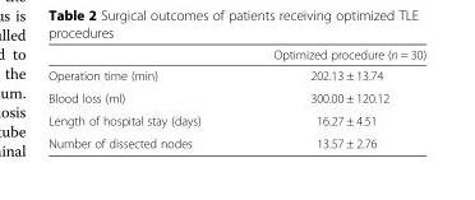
<table><thead><tr><td></td><td>Optimized procedure (n = 30)</td></tr></thead><tbody><tr><td>Operation time (min)</td><td>202.13 ± 13.74</td></tr><tr><td>Blood loss (ml)</td><td>300.00 ± 120.12</td></tr><tr><td>Length of hospital stay (days)</td><td>16.27 ± 4.51</td></tr><tr><td>Number of dissected nodes</td><td>13.57 ± 2.76</td></tr></tbody></table>